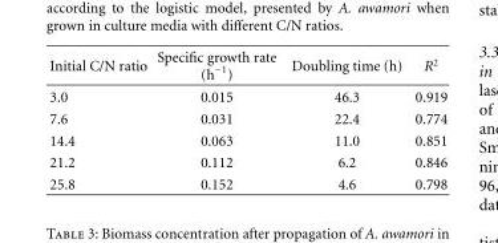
<table><thead><tr><td>Initial C/N ratio</td><td>Specific growth rate (h<sup>−1</sup>)</td><td>Doubling time (h)</td><td>R<sup>2</sup></td></tr></thead><tbody><tr><td>3.0</td><td>0.015</td><td>46.3</td><td>0.919</td></tr><tr><td>7.6</td><td>0.031</td><td>22.4</td><td>0.774</td></tr><tr><td>14.4</td><td>0.063</td><td>11.0</td><td>0.851</td></tr><tr><td>21.2</td><td>0.112</td><td>6.2</td><td>0.846</td></tr><tr><td>25.8</td><td>0.152</td><td>4.6</td><td>0.798</td></tr></tbody></table>